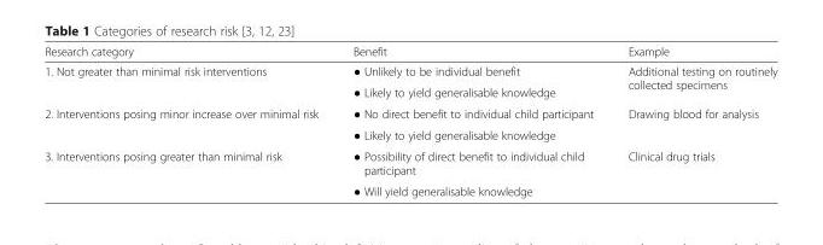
<table><thead><tr><td>Research category</td><td>Benefit</td><td>Example</td></tr></thead><tbody><tr><td rowspan="2">1. Not greater than minimal risk interventions</td><td>● Unlikely to be individual benefit</td><td rowspan="2">Additional testing on routinely collected specimens</td></tr><tr><td>● Likely to yield generalisable knowledge</td></tr><tr><td rowspan="2">2. Interventions posing minor increase over minimal risk</td><td>● No direct benefit to individual child participant</td><td rowspan="2">Drawing blood for analysis</td></tr><tr><td>● Likely to yield generalisable knowledge</td></tr><tr><td rowspan="2">3. Interventions posing greater than minimal risk</td><td>● Possibility of direct benefit to individual child participant</td><td rowspan="2">Clinical drug trials</td></tr><tr><td>● Will yield generalisable knowledge</td></tr></tbody></table>